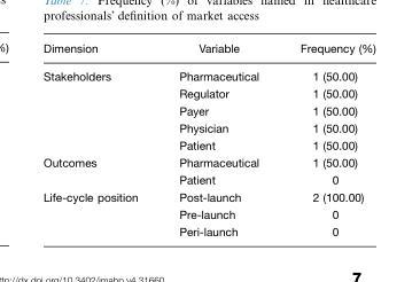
<table><thead><tr><td>Dimension</td><td>Variable</td><td>Frequency (%)</td></tr></thead><tbody><tr><td rowspan="5">Stakeholders</td><td>Pharmaceutical</td><td>1 (50.00)</td></tr><tr><td>Regulator</td><td>1 (50.00)</td></tr><tr><td>Payer</td><td>1 (50.00)</td></tr><tr><td>Physician</td><td>1 (50.00)</td></tr><tr><td>Patient</td><td>1 (50.00)</td></tr><tr><td rowspan="2">Outcomes</td><td>Pharmaceutical</td><td>1 (50.00)</td></tr><tr><td>Patient</td><td>0</td></tr><tr><td rowspan="3">Life-cycle position</td><td>Post-launch</td><td>2 (100.00)</td></tr><tr><td>Pre-launch</td><td>0</td></tr><tr><td>Peri-launch</td><td>0</td></tr></tbody></table>